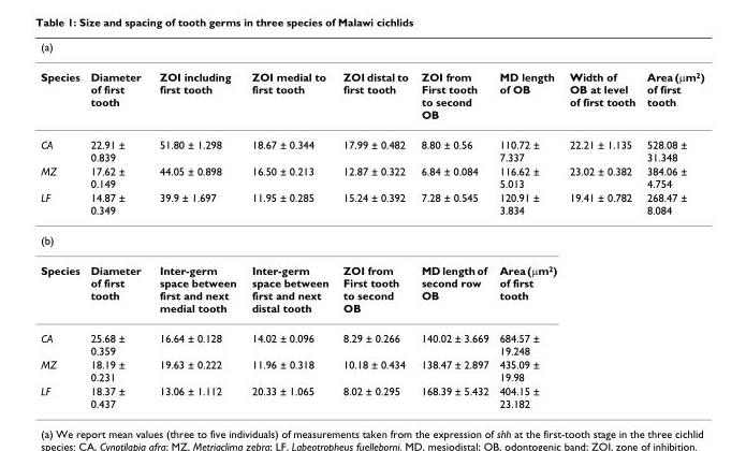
<table><thead><tr><td colspan="9">(a)</td></tr><tr><td>Species</td><td>Diameter of first tooth</td><td>ZOI including first tooth</td><td>ZOI medial to first tooth</td><td>ZOI distal to first tooth</td><td>ZOI from First tooth to second OB</td><td>MD length of OB</td><td>Width of OB at level of first tooth</td><td>Area (μm<sup>2</sup>) of first tooth</td></tr></thead><tbody><tr><td>CA</td><td>22.91 ± 0.839</td><td>51.80 ± 1.298</td><td>18.67 ± 0.344</td><td>17.99 ± 0.482</td><td>8.80 ± 0.56</td><td>110.72 ± 7.337</td><td>22.21 ± 1.135</td><td>528.08 ± 31.348</td></tr><tr><td>MZ</td><td>17.62 ± 0.149</td><td>44.05 ± 0.898</td><td>16.50 ± 0.213</td><td>12.87 ± 0.322</td><td>6.84 ± 0.084</td><td>116.62 ± 5.013</td><td>23.02 ± 0.382</td><td>384.06 ± 4.754</td></tr><tr><td>LF</td><td>14.87 ± 0.349</td><td>39.9 ± 1.697</td><td>11.95 ± 0.285</td><td>15.24 ± 0.392</td><td>7.28 ± 0.545</td><td>120.91 ± 3.834</td><td>19.41 ± 0.782</td><td>268.47 ± 8.084</td></tr><tr><td colspan="9">(b)</td></tr><tr><td>Species</td><td>Diameter of first tooth</td><td>Inter-germ space between first and next medial tooth</td><td>Inter-germ space between first and next distal tooth</td><td>ZOI from First tooth to second OB</td><td>MD length of second row OB</td><td>Area (μm<sup>2</sup>) of first tooth</td><td></td><td></td></tr><tr><td>CA</td><td>25.68 ± 0.359</td><td>16.64 ± 0.128</td><td>14.02 ± 0.096</td><td>8.29 ± 0.266</td><td>140.02 ± 3.669</td><td>684.57 ± 19.248</td><td></td><td></td></tr><tr><td>MZ</td><td>18.19 ± 0.231</td><td>19.63 ± 0.222</td><td>11.96 ± 0.318</td><td>10.18 ± 0.434</td><td>138.47 ± 2.897</td><td>435.09 ± 19.98</td><td></td><td></td></tr><tr><td>LF</td><td>18.37 ± 0.437</td><td>13.06 ± 1.112</td><td>20.33 ± 1.065</td><td>8.02 ± 0.295</td><td>168.39 ± 5.432</td><td>404.15 ± 23.182</td><td></td><td></td></tr></tbody></table>